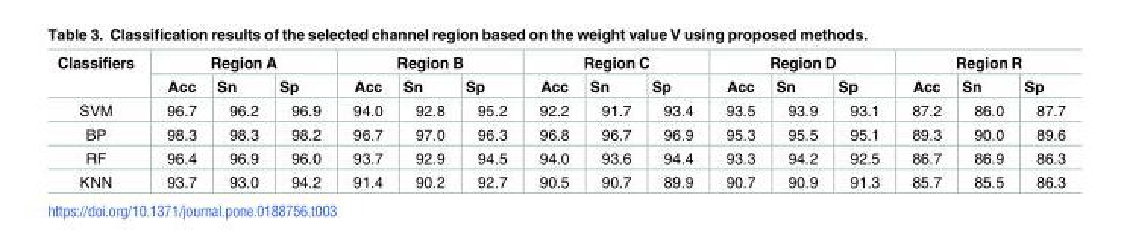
<table><thead><tr><td rowspan="2">Classifiers</td><td colspan="3">Region A</td><td colspan="3">Region B</td><td colspan="3">Region C</td><td colspan="3">Region D</td><td colspan="3">Region R</td></tr><tr><td>Acc</td><td>Sn</td><td>Sp</td><td>Acc</td><td>Sn</td><td>Sp</td><td>Acc</td><td>Sn</td><td>Sp</td><td>Acc</td><td>Sn</td><td>Sp</td><td>Acc</td><td>Sn</td><td>Sp</td></tr></thead><tbody><tr><td>SVM</td><td>96.7</td><td>96.2</td><td>96.9</td><td>94.0</td><td>92.8</td><td>95.2</td><td>92.2</td><td>91.7</td><td>93.4</td><td>93.5</td><td>93.9</td><td>93.1</td><td>87.2</td><td>86.0</td><td>87.7</td></tr><tr><td>BP</td><td>98.3</td><td>98.3</td><td>98.2</td><td>96.7</td><td>97.0</td><td>96.3</td><td>96.8</td><td>96.7</td><td>96.9</td><td>95.3</td><td>95.5</td><td>95.1</td><td>89.3</td><td>90.0</td><td>89.6</td></tr><tr><td>RF</td><td>96.4</td><td>96.9</td><td>96.0</td><td>93.7</td><td>92.9</td><td>94.5</td><td>94.0</td><td>93.6</td><td>94.4</td><td>93.3</td><td>94.2</td><td>92.5</td><td>86.7</td><td>86.9</td><td>86.3</td></tr><tr><td>KNN</td><td>93.7</td><td>93.0</td><td>94.2</td><td>91.4</td><td>90.2</td><td>92.7</td><td>90.5</td><td>90.7</td><td>89.9</td><td>90.7</td><td>90.9</td><td>91.3</td><td>85.7</td><td>85.5</td><td>86.3</td></tr></tbody></table>